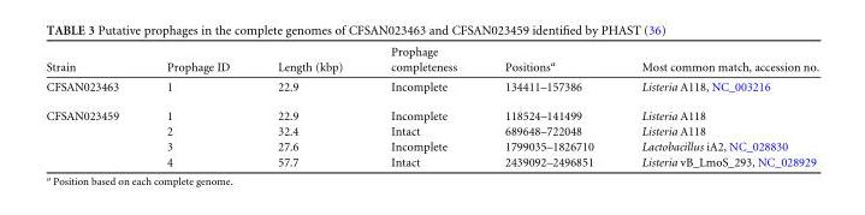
<table><thead><tr><td>Strain</td><td>Prophage ID</td><td>Length (kbp)</td><td>Prophage completeness</td><td>Positions<sup>a</sup></td><td>Most common match, accession no.</td></tr></thead><tbody><tr><td>CFSAN023463</td><td>1</td><td>22.9</td><td>Incomplete</td><td>134411–157386</td><td>Listeria A118, NC_003216</td></tr><tr><td rowspan="4">CFSAN023459</td><td>1</td><td>22.9</td><td>Incomplete</td><td>118524–141499</td><td>Listeria A118</td></tr><tr><td>2</td><td>32.4</td><td>Intact</td><td>689648–722048</td><td>Listeria A118</td></tr><tr><td>3</td><td>27.6</td><td>Incomplete</td><td>1799035–1826710</td><td>Lactobacillus iA2, NC_028830</td></tr><tr><td>4</td><td>57.7</td><td>Intact</td><td>2439092–2496851</td><td>Listeria vB_LmoS_293, NC_028929</td></tr></tbody></table>